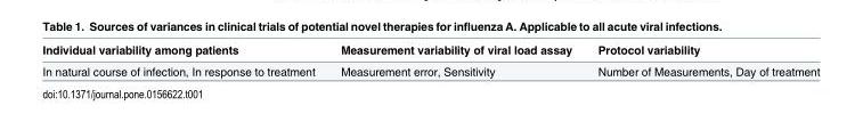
<table><thead><tr><td>Individual variability among patients</td><td>Measurement variability of viral load assay</td><td>Protocol variability</td></tr></thead><tbody><tr><td>In natural course of infection, In response to treatment</td><td>Measurement error, Sensitivity</td><td>Number of Measurements, Day of treatment</td></tr></tbody></table>